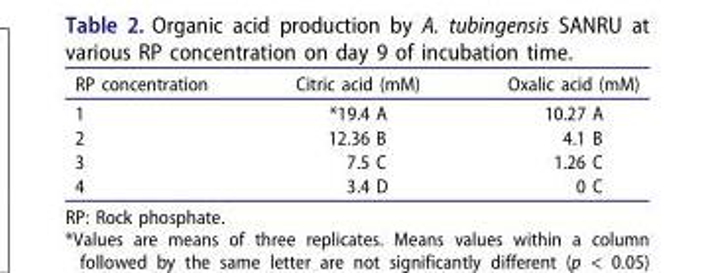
<table><thead><tr><td>RP concentration</td><td>Citric acid (mM)</td><td>Oxalic acid (mM)</td></tr></thead><tbody><tr><td>1</td><td>*19.4 A</td><td>10.27 A</td></tr><tr><td>2</td><td>12.36 B</td><td>4.1 B</td></tr><tr><td>3</td><td>7.5 C</td><td>1.26 C</td></tr><tr><td>4</td><td>3.4 D</td><td>0 C</td></tr></tbody></table>